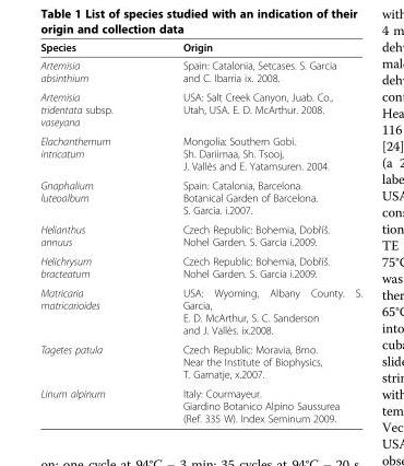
<table><thead><tr><td>Species</td><td>Origin</td></tr></thead><tbody><tr><td>Artemisia absinthium</td><td>Spain: Catalonia, Setcases. S. Garcia and C. Ibarria ix. 2008.</td></tr><tr><td>Artemisia tridentata subsp. vaseyana</td><td>USA: Salt Creek Canyon, Juab. Co., Utah, USA. E. D. McArthur. 2008.</td></tr><tr><td>Elachanthemum intricatum</td><td>Mongolia: Southern Gobi. Sh. Dariimaa, Sh. Tsooj, J. Vallès and E. Yatamsuren. 2004.</td></tr><tr><td>Gnaphalium luteoalbum</td><td>Spain: Catalonia, Barcelona. Botanical Garden of Barcelona. S. Garcia. i.2007.</td></tr><tr><td>Helianthus annuus</td><td>Czech Republic: Bohemia, Dobříš. Nohel Garden. S. Garcia i.2009.</td></tr><tr><td>Helichrysum bracteatum</td><td>Czech Republic: Bohemia, Dobříš. Nohel Garden. S. Garcia i.2009.</td></tr><tr><td>Matricaria matricarioides</td><td>USA: Wyoming, Albany County. S. Garcia, E. D. McArthur, S. C. Sanderson and J. Vallès. ix.2008.</td></tr><tr><td>Tagetes patula</td><td>Czech Republic: Moravia, Brno. Near the Institute of Biophysics, T. Garnatje, x.2007.</td></tr><tr><td>Linum alpinum</td><td>Italy: Courmayeur. Giardino Botanico Alpino Saussurea (Ref. 335 W). Index Seminum 2009.</td></tr></tbody></table>